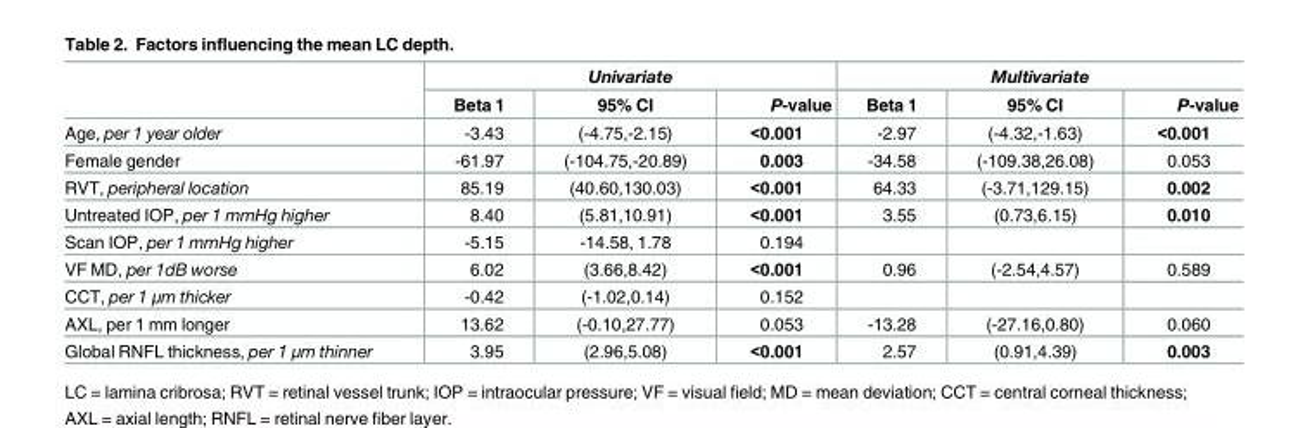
<table><thead><tr><td rowspan="2"></td><td colspan="3">Univariate</td><td colspan="3">Multivariate</td></tr><tr><td>Beta 1</td><td>95% CI</td><td>P-value</td><td>Beta 1</td><td>95% CI</td><td>P-value</td></tr></thead><tbody><tr><td>Age, per 1 year older</td><td>-3.43</td><td>(-4.75,-2.15)</td><td>&lt;0.001</td><td>-2.97</td><td>(-4.32,-1.63)</td><td>&lt;0.001</td></tr><tr><td>Female gender</td><td>-61.97</td><td>(-104.75,-20.89)</td><td>0.003</td><td>-34.58</td><td>(-109.38,26.08)</td><td>0.053</td></tr><tr><td>RVT, peripheral location</td><td>85.19</td><td>(40.60,130.03)</td><td>&lt;0.001</td><td>64.33</td><td>(-3.71,129.15)</td><td>0.002</td></tr><tr><td>Untreated IOP, per 1 mmHg higher</td><td>8.40</td><td>(5.81,10.91)</td><td>&lt;0.001</td><td>3.55</td><td>(0.73,6.15)</td><td>0.010</td></tr><tr><td>Scan IOP, per 1 mmHg higher</td><td>-5.15</td><td>-14.58, 1.78</td><td>0.194</td><td></td><td></td><td></td></tr><tr><td>VF MD, per 1dB worse</td><td>6.02</td><td>(3.66,8.42)</td><td>&lt;0.001</td><td>0.96</td><td>(-2.54,4.57)</td><td>0.589</td></tr><tr><td>CCT, per 1 μm thicker</td><td>-0.42</td><td>(-1.02,0.14)</td><td>0.152</td><td></td><td></td><td></td></tr><tr><td>AXL, per 1 mm longer</td><td>13.62</td><td>(-0.10,27.77)</td><td>0.053</td><td>-13.28</td><td>(-27.16,0.80)</td><td>0.060</td></tr><tr><td>Global RNFL thickness, per 1 μm thinner</td><td>3.95</td><td>(2.96,5.08)</td><td>&lt;0.001</td><td>2.57</td><td>(0.91,4.39)</td><td>0.003</td></tr></tbody></table>